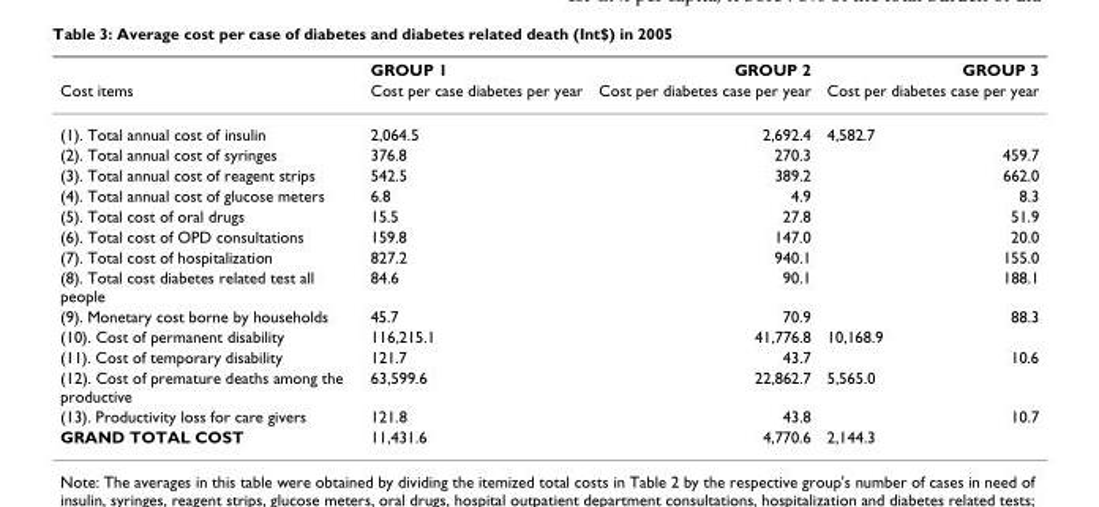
<table><thead><tr><td rowspan="2">Cost items</td><td rowspan="2">GROUP 1 Cost per case diabetes per year</td><td rowspan="2">GROUP 2 Cost per diabetes case per year</td><td rowspan="2">GROUP 3 Cost per diabetes case per year</td></tr><tr></tr></thead><tbody><tr><td>(1). Total annual cost of insulin</td><td>2,064.5</td><td>2,692.4</td><td>4,582.7</td></tr><tr><td>(2). Total annual cost of syringes</td><td>376.8</td><td>270.3</td><td>459.7</td></tr><tr><td>(3). Total annual cost of reagent strips</td><td>542.5</td><td>389.2</td><td>662.0</td></tr><tr><td>(4). Total annual cost of glucose meters</td><td>6.8</td><td>4.9</td><td>8.3</td></tr><tr><td>(5). Total cost of oral drugs</td><td>15.5</td><td>27.8</td><td>51.9</td></tr><tr><td>(6). Total cost of OPD consultations</td><td>159.8</td><td>147.0</td><td>20.0</td></tr><tr><td>(7). Total cost of hospitalization</td><td>827.2</td><td>940.1</td><td>155.0</td></tr><tr><td>(8). Total cost diabetes related test all people</td><td>84.6</td><td>90.1</td><td>188.1</td></tr><tr><td>(9). Monetary cost borne by households</td><td>45.7</td><td>70.9</td><td>88.3</td></tr><tr><td>(10). Cost of permanent disability</td><td>116,215.1</td><td>41,776.8</td><td>10,168.9</td></tr><tr><td>(11). Cost of temporary disability</td><td>121.7</td><td>43.7</td><td>10.6</td></tr><tr><td>(12). Cost of premature deaths among the productive</td><td>63,599.6</td><td>22,862.7</td><td>5,565.0</td></tr><tr><td>(13). Productivity loss for care givers</td><td>121.8</td><td>43.8</td><td>10.7</td></tr><tr><td>GRAND TOTAL COST</td><td>11,431.6</td><td>4,770.6</td><td>2,144.3</td></tr></tbody></table>